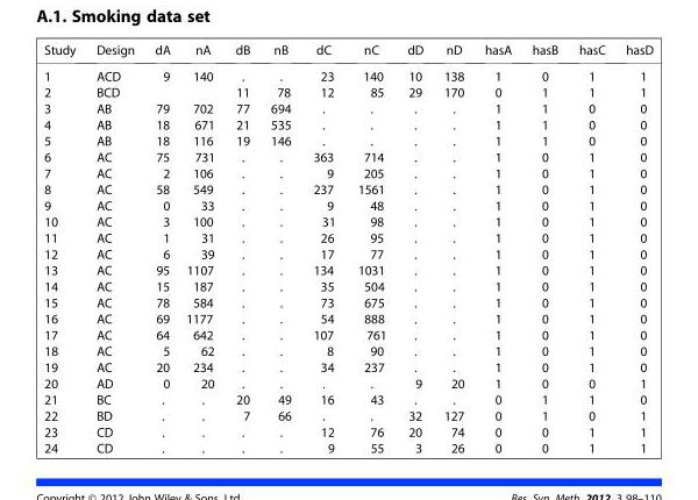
<table><thead><tr><td>Study</td><td>Design</td><td>dA</td><td>nA</td><td>dB</td><td>nB</td><td>dC</td><td>nC</td><td>dD</td><td>nD</td><td>hasA</td><td>hasB</td><td>hasC</td><td>hasD</td></tr></thead><tbody><tr><td>1</td><td>ACD</td><td>9</td><td>140</td><td>.</td><td>.</td><td>23</td><td>140</td><td>10</td><td>138</td><td>1</td><td>0</td><td>1</td><td>1</td></tr><tr><td>2</td><td>BCD</td><td></td><td></td><td>11</td><td>78</td><td>12</td><td>85</td><td>29</td><td>170</td><td>0</td><td>1</td><td>1</td><td>1</td></tr><tr><td>3</td><td>AB</td><td>79</td><td>702</td><td>77</td><td>694</td><td>.</td><td>.</td><td>.</td><td>.</td><td>1</td><td>1</td><td>0</td><td>0</td></tr><tr><td>4</td><td>AB</td><td>18</td><td>671</td><td>21</td><td>535</td><td>.</td><td>.</td><td>.</td><td>.</td><td>1</td><td>1</td><td>0</td><td>0</td></tr><tr><td>5</td><td>AB</td><td>18</td><td>116</td><td>19</td><td>146</td><td>.</td><td>.</td><td>.</td><td>.</td><td>1</td><td>1</td><td>0</td><td>0</td></tr><tr><td>6</td><td>AC</td><td>75</td><td>731</td><td>.</td><td>.</td><td>363</td><td>714</td><td>.</td><td>.</td><td>1</td><td>0</td><td>1</td><td>0</td></tr><tr><td>7</td><td>AC</td><td>2</td><td>106</td><td>.</td><td>.</td><td>9</td><td>205</td><td>.</td><td>.</td><td>1</td><td>0</td><td>1</td><td>0</td></tr><tr><td>8</td><td>AC</td><td>58</td><td>549</td><td>.</td><td>.</td><td>237</td><td>1561</td><td>.</td><td>.</td><td>1</td><td>0</td><td>1</td><td>0</td></tr><tr><td>9</td><td>AC</td><td>0</td><td>33</td><td>.</td><td>.</td><td>9</td><td>48</td><td>.</td><td>.</td><td>1</td><td>0</td><td>1</td><td>0</td></tr><tr><td>10</td><td>AC</td><td>3</td><td>100</td><td>.</td><td>.</td><td>31</td><td>98</td><td>.</td><td>.</td><td>1</td><td>0</td><td>1</td><td>0</td></tr><tr><td>11</td><td>AC</td><td>1</td><td>31</td><td>.</td><td>.</td><td>26</td><td>95</td><td>.</td><td>.</td><td>1</td><td>0</td><td>1</td><td>0</td></tr><tr><td>12</td><td>AC</td><td>6</td><td>39</td><td>.</td><td>.</td><td>17</td><td>77</td><td>.</td><td>.</td><td>1</td><td>0</td><td>1</td><td>0</td></tr><tr><td>13</td><td>AC</td><td>95</td><td>1107</td><td>.</td><td>.</td><td>134</td><td>1031</td><td>.</td><td>.</td><td>1</td><td>0</td><td>1</td><td>0</td></tr><tr><td>14</td><td>AC</td><td>15</td><td>187</td><td>.</td><td>.</td><td>35</td><td>504</td><td>.</td><td>.</td><td>1</td><td>0</td><td>1</td><td>0</td></tr><tr><td>15</td><td>AC</td><td>78</td><td>584</td><td>.</td><td>.</td><td>73</td><td>675</td><td>.</td><td>.</td><td>1</td><td>0</td><td>1</td><td>0</td></tr><tr><td>16</td><td>AC</td><td>69</td><td>1177</td><td>.</td><td>.</td><td>54</td><td>888</td><td>.</td><td>.</td><td>1</td><td>0</td><td>1</td><td>0</td></tr><tr><td>17</td><td>AC</td><td>64</td><td>642</td><td>.</td><td>.</td><td>107</td><td>761</td><td>.</td><td>.</td><td>1</td><td>0</td><td>1</td><td>0</td></tr><tr><td>18</td><td>AC</td><td>5</td><td>62</td><td>.</td><td>.</td><td>8</td><td>90</td><td>.</td><td>.</td><td>1</td><td>0</td><td>1</td><td>0</td></tr><tr><td>19</td><td>AC</td><td>20</td><td>234</td><td>.</td><td>.</td><td>34</td><td>237</td><td>.</td><td>.</td><td>1</td><td>0</td><td>1</td><td>0</td></tr><tr><td>20</td><td>AD</td><td>0</td><td>20</td><td>.</td><td>.</td><td>.</td><td>.</td><td>9</td><td>20</td><td>1</td><td>0</td><td>0</td><td>1</td></tr><tr><td>21</td><td>BC</td><td>.</td><td>.</td><td>20</td><td>49</td><td>16</td><td>43</td><td>.</td><td>.</td><td>0</td><td>1</td><td>1</td><td>0</td></tr><tr><td>22</td><td>BD</td><td>.</td><td>.</td><td>7</td><td>66</td><td>.</td><td>.</td><td>32</td><td>127</td><td>0</td><td>1</td><td>0</td><td>1</td></tr><tr><td>23</td><td>CD</td><td>.</td><td>.</td><td>.</td><td>.</td><td>12</td><td>76</td><td>20</td><td>74</td><td>0</td><td>0</td><td>1</td><td>1</td></tr><tr><td>24</td><td>CD</td><td>.</td><td>.</td><td>.</td><td>.</td><td>9</td><td>55</td><td>3</td><td>26</td><td>0</td><td>0</td><td>1</td><td>1</td></tr></tbody></table>